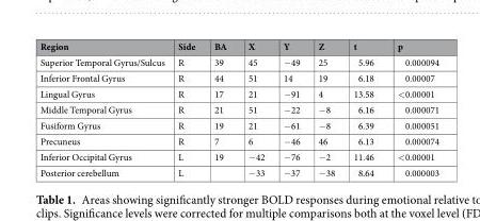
<table><thead><tr><td>Region</td><td>Side</td><td>BA</td><td>X</td><td>Y</td><td>Z</td><td>t</td><td>p</td></tr></thead><tbody><tr><td>Superior Temporal Gyrus/Sulcus</td><td>R</td><td>39</td><td>45</td><td>−49</td><td>25</td><td>5.96</td><td>0.000094</td></tr><tr><td>Inferior Frontal Gyrus</td><td>R</td><td>44</td><td>51</td><td>14</td><td>19</td><td>6.18</td><td>0.00007</td></tr><tr><td>Lingual Gyrus</td><td>R</td><td>17</td><td>21</td><td>−91</td><td>4</td><td>13.58</td><td>&lt;0.00001</td></tr><tr><td>Middle Temporal Gyrus</td><td>R</td><td>21</td><td>51</td><td>−22</td><td>−8</td><td>6.16</td><td>0.000071</td></tr><tr><td>Fusiform Gyrus</td><td>R</td><td>19</td><td>21</td><td>−61</td><td>−8</td><td>6.39</td><td>0.000051</td></tr><tr><td>Precuneus</td><td>R</td><td>7</td><td>6</td><td>−46</td><td>46</td><td>6.13</td><td>0.000074</td></tr><tr><td>Inferior Occipital Gyrus</td><td>L</td><td>19</td><td>−42</td><td>−76</td><td>−2</td><td>11.46</td><td>&lt;0.00001</td></tr><tr><td>Posterior cerebellum</td><td>L</td><td></td><td>−33</td><td>−37</td><td>−38</td><td>8.64</td><td>0.000003</td></tr></tbody></table>